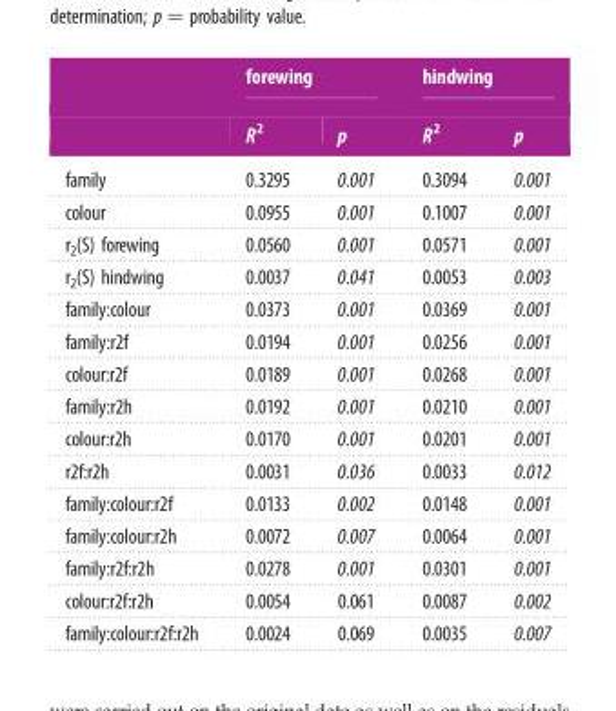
<table><thead><tr><td rowspan="2"></td><td colspan="2">forewing</td><td colspan="2">hindwing</td></tr><tr><td>R<sup>2</sup></td><td>p</td><td>R<sup>2</sup></td><td>p</td></tr></thead><tbody><tr><td>family</td><td>0.3295</td><td>0.001</td><td>0.3094</td><td>0.001</td></tr><tr><td>colour</td><td>0.0955</td><td>0.001</td><td>0.1007</td><td>0.001</td></tr><tr><td>r<sub>2</sub>(S) forewing</td><td>0.0560</td><td>0.001</td><td>0.0571</td><td>0.001</td></tr><tr><td>r<sub>2</sub>(S) hindwing</td><td>0.0037</td><td>0.041</td><td>0.0053</td><td>0.003</td></tr><tr><td>family:colour</td><td>0.0373</td><td>0.001</td><td>0.0369</td><td>0.001</td></tr><tr><td>family:r2f</td><td>0.0194</td><td>0.001</td><td>0.0256</td><td>0.001</td></tr><tr><td>colour:r2f</td><td>0.0189</td><td>0.001</td><td>0.0268</td><td>0.001</td></tr><tr><td>family:r2h</td><td>0.0192</td><td>0.001</td><td>0.0210</td><td>0.001</td></tr><tr><td>colour:r2h</td><td>0.0170</td><td>0.001</td><td>0.0201</td><td>0.001</td></tr><tr><td>r2f:r2h</td><td>0.0031</td><td>0.036</td><td>0.0033</td><td>0.012</td></tr><tr><td>family:colour:r2f</td><td>0.0133</td><td>0.002</td><td>0.0148</td><td>0.001</td></tr><tr><td>family:colour:r2h</td><td>0.0072</td><td>0.007</td><td>0.0064</td><td>0.001</td></tr><tr><td>family:r2f:r2h</td><td>0.0278</td><td>0.001</td><td>0.0301</td><td>0.001</td></tr><tr><td>colour:r2f:r2h</td><td>0.0054</td><td>0.061</td><td>0.0087</td><td>0.002</td></tr><tr><td>family:colour:r2f:r2h</td><td>0.0024</td><td>0.069</td><td>0.0035</td><td>0.007</td></tr></tbody></table>